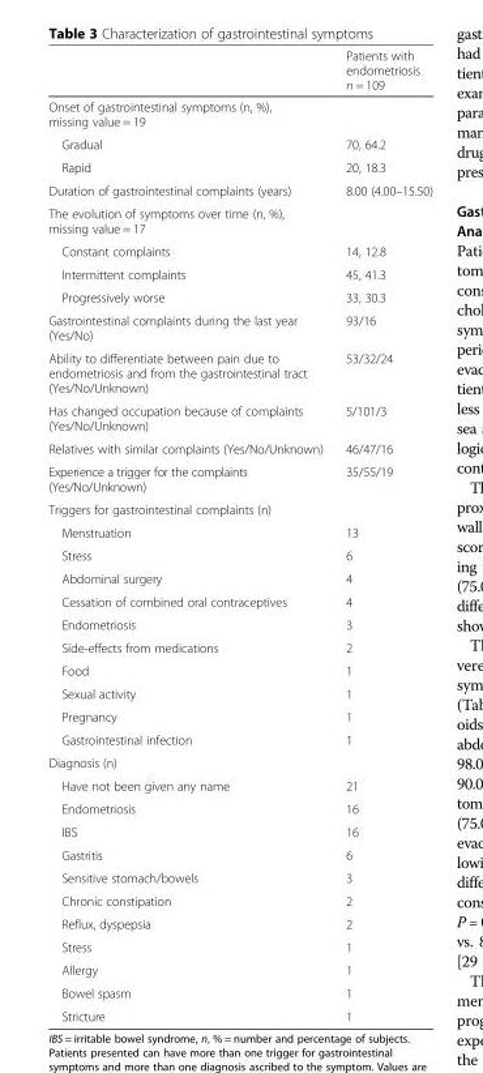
<table><thead><tr><td></td><td>Patients with endometriosis n = 109</td></tr></thead><tbody><tr><td colspan="2">Onset of gastrointestinal symptoms (n, %), missing value = 19</td></tr><tr><td>Gradual</td><td>70, 64.2</td></tr><tr><td>Rapid</td><td>20, 18.3</td></tr><tr><td>Duration of gastrointestinal complaints (years)</td><td>8.00 (4.00–15.50)</td></tr><tr><td colspan="2">The evolution of symptoms over time (n, %), missing value = 17</td></tr><tr><td>Constant complaints</td><td>14, 12.8</td></tr><tr><td>Intermittent complaints</td><td>45, 41.3</td></tr><tr><td>Progressively worse</td><td>33, 30.3</td></tr><tr><td>Gastrointestinal complaints during the last year (Yes/No)</td><td>93/16</td></tr><tr><td>Ability to differentiate between pain due to endometriosis and from the gastrointestinal tract (Yes/No/Unknown)</td><td>53/32/24</td></tr><tr><td>Has changed occupation because of complaints (Yes/No/Unknown)</td><td>5/101/3</td></tr><tr><td>Relatives with similar complaints (Yes/No/Unknown)</td><td>46/47/16</td></tr><tr><td>Experience a trigger for the complaints (Yes/No/Unknown)</td><td>35/55/19</td></tr><tr><td colspan="2">Triggers for gastrointestinal complaints (n)</td></tr><tr><td>Menstruation</td><td>13</td></tr><tr><td>Stress</td><td>6</td></tr><tr><td>Abdominal surgery</td><td>4</td></tr><tr><td>Cessation of combined oral contraceptives</td><td>4</td></tr><tr><td>Endometriosis</td><td>3</td></tr><tr><td>Side-effects from medications</td><td>2</td></tr><tr><td>Food</td><td>1</td></tr><tr><td>Sexual activity</td><td>1</td></tr><tr><td>Pregnancy</td><td>1</td></tr><tr><td>Gastrointestinal infection</td><td>1</td></tr><tr><td colspan="2">Diagnosis (n)</td></tr><tr><td>Have not been given any name</td><td>21</td></tr><tr><td>Endometriosis</td><td>16</td></tr><tr><td>IBS</td><td>16</td></tr><tr><td>Gastritis</td><td>6</td></tr><tr><td>Sensitive stomach/bowels</td><td>3</td></tr><tr><td>Chronic constipation</td><td>2</td></tr><tr><td>Reflux, dyspepsia</td><td>2</td></tr><tr><td>Stress</td><td>1</td></tr><tr><td>Allergy</td><td>1</td></tr><tr><td>Bowel spasm</td><td>1</td></tr><tr><td>Stricture</td><td>1</td></tr></tbody></table>